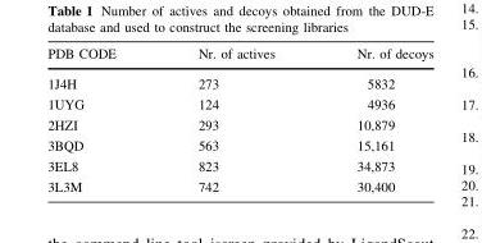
<table><thead><tr><td>PDB CODE</td><td>Nr. of actives</td><td>Nr. of decoys</td></tr></thead><tbody><tr><td>1J4H</td><td>273</td><td>5832</td></tr><tr><td>1UYG</td><td>124</td><td>4936</td></tr><tr><td>2HZI</td><td>293</td><td>10,879</td></tr><tr><td>3BQD</td><td>563</td><td>15,161</td></tr><tr><td>3EL8</td><td>823</td><td>34,873</td></tr><tr><td>3L3M</td><td>742</td><td>30,400</td></tr></tbody></table>